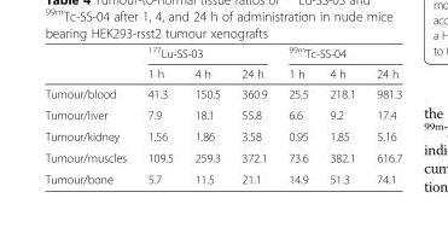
<table><thead><tr><td rowspan="2"></td><td colspan="3"><sup>177</sup>Lu-SS-03</td><td colspan="3"><sup>99m</sup>Tc-SS-04</td></tr><tr><td>1 h</td><td>4 h</td><td>24 h</td><td>1 h</td><td>4 h</td><td>24 h</td></tr></thead><tbody><tr><td>Tumour/blood</td><td>41.3</td><td>150.5</td><td>360.9</td><td>25.5</td><td>218.1</td><td>981.3</td></tr><tr><td>Tumour/liver</td><td>7.9</td><td>18.1</td><td>55.8</td><td>6.6</td><td>9.2</td><td>17.4</td></tr><tr><td>Tumour/kidney</td><td>1.56</td><td>1.86</td><td>3.58</td><td>0.95</td><td>1.85</td><td>5.16</td></tr><tr><td>Tumour/muscles</td><td>109.5</td><td>259.3</td><td>372.1</td><td>73.6</td><td>382.1</td><td>616.7</td></tr><tr><td>Tumour/bone</td><td>5.7</td><td>11.5</td><td>21.1</td><td>14.9</td><td>51.3</td><td>74.1</td></tr></tbody></table>